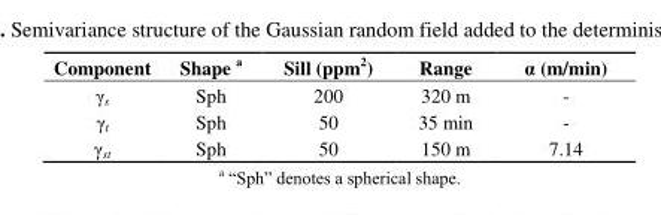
<table><thead><tr><td>Component</td><td>Shape <sup>a</sup></td><td>Sill (ppm<sup>2</sup>)</td><td>Range</td><td>α (m/min)</td></tr></thead><tbody><tr><td>γ<sub>s</sub></td><td>Sph</td><td>200</td><td>320 m</td><td>-</td></tr><tr><td>γ<sub>t</sub></td><td>Sph</td><td>50</td><td>35 min</td><td>-</td></tr><tr><td>γ<sub>st</sub></td><td>Sph</td><td>50</td><td>150 m</td><td>7.14</td></tr></tbody></table>